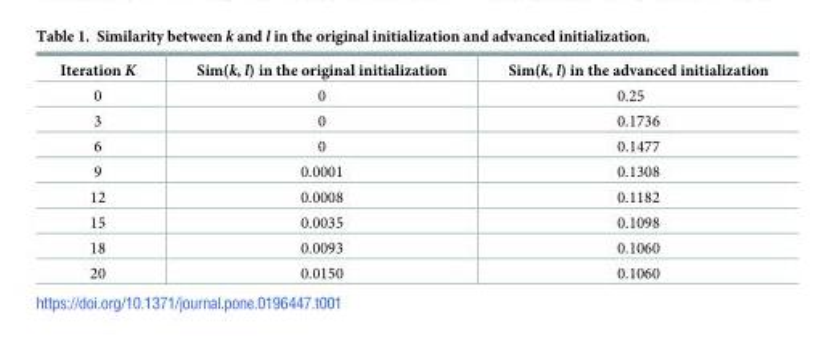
<table><thead><tr><td>Iteration K</td><td>Sim(k, l) in the original initialization</td><td>Sim(k, l) in the advanced initialization</td></tr></thead><tbody><tr><td>0</td><td>0</td><td>0.25</td></tr><tr><td>3</td><td>0</td><td>0.1736</td></tr><tr><td>6</td><td>0</td><td>0.1477</td></tr><tr><td>9</td><td>0.0001</td><td>0.1308</td></tr><tr><td>12</td><td>0.0008</td><td>0.1182</td></tr><tr><td>15</td><td>0.0035</td><td>0.1098</td></tr><tr><td>18</td><td>0.0093</td><td>0.1060</td></tr><tr><td>20</td><td>0.0150</td><td>0.1060</td></tr></tbody></table>